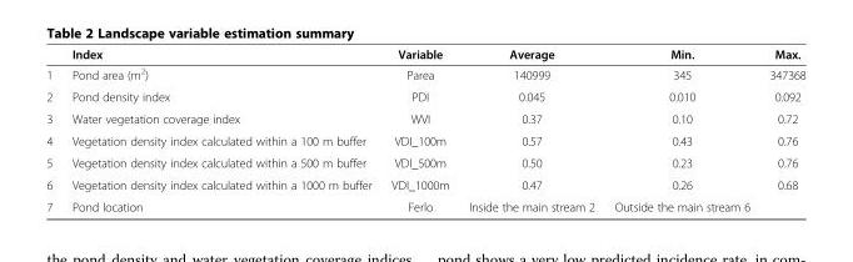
<table><thead><tr><td></td><td>Index</td><td>Variable</td><td>Average</td><td>Min.</td><td>Max.</td></tr></thead><tbody><tr><td>1</td><td>Pond area (m<sup>2</sup>)</td><td>Parea</td><td>140999</td><td>345</td><td>347368</td></tr><tr><td>2</td><td>Pond density index</td><td>PDI</td><td>0.045</td><td>0.010</td><td>0.092</td></tr><tr><td>3</td><td>Water vegetation coverage index</td><td>WVI</td><td>0.37</td><td>0.10</td><td>0.72</td></tr><tr><td>4</td><td>Vegetation density index calculated within a 100 m buffer</td><td>VDI_100m</td><td>0.57</td><td>0.43</td><td>0.76</td></tr><tr><td>5</td><td>Vegetation density index calculated within a 500 m buffer</td><td>VDI_500m</td><td>0.50</td><td>0.23</td><td>0.76</td></tr><tr><td>6</td><td>Vegetation density index calculated within a 1000 m buffer</td><td>VDI_1000m</td><td>0.47</td><td>0.26</td><td>0.68</td></tr><tr><td>7</td><td>Pond location</td><td>Ferlo</td><td>Inside the main stream 2</td><td>Outside the main stream 6</td><td></td></tr></tbody></table>